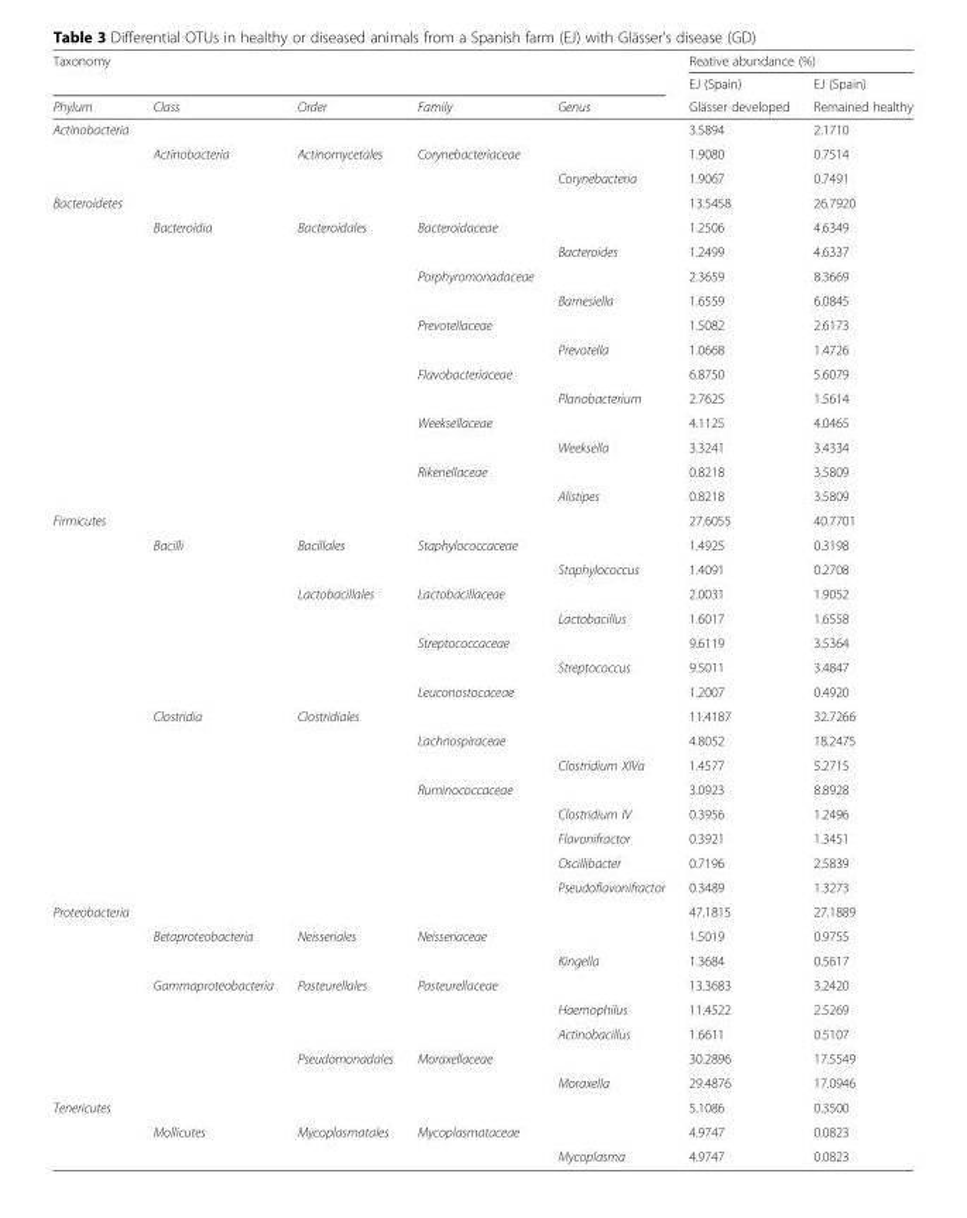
<table><thead><tr><td rowspan="2" colspan="5">Taxonomy</td><td colspan="2">Reative abundance (%)</td></tr><tr><td rowspan="2">EJ (Spain) Glässer developed</td><td rowspan="2">EJ (Spain) Remained healthy</td></tr><tr><td>Phylum</td><td>Class</td><td>Order</td><td>Family</td><td>Genus</td></tr></thead><tbody><tr><td rowspan="3">Actinobacteria</td><td></td><td></td><td></td><td></td><td>3.5894</td><td>2.1710</td></tr><tr><td>Actinobacteria</td><td>Actinomycetales</td><td>Corynebacteriaceae</td><td></td><td>1.9080</td><td>0.7514</td></tr><tr><td></td><td></td><td></td><td>Corynebacteria</td><td>1.9067</td><td>0.7491</td></tr><tr><td rowspan="13">Bacteroidetes</td><td></td><td></td><td></td><td></td><td>13.5458</td><td>26.7920</td></tr><tr><td>Bacteroidia</td><td>Bacteroidales</td><td>Bacteroidaceae</td><td></td><td>1.2506</td><td>4.6349</td></tr><tr><td></td><td></td><td></td><td>Bacteroides</td><td>1.2499</td><td>4.6337</td></tr><tr><td></td><td></td><td>Porphyromonadaceae</td><td></td><td>2.3659</td><td>8.3669</td></tr><tr><td></td><td></td><td></td><td>Barnesiella</td><td>1.6559</td><td>6.0845</td></tr><tr><td></td><td></td><td>Prevotellaceae</td><td></td><td>1.5082</td><td>2.6173</td></tr><tr><td></td><td></td><td></td><td>Prevotella</td><td>1.0668</td><td>1.4726</td></tr><tr><td></td><td></td><td>Flavobacteriaceae</td><td></td><td>6.8750</td><td>5.6079</td></tr><tr><td></td><td></td><td></td><td>Planobacterium</td><td>2.7625</td><td>1.5614</td></tr><tr><td></td><td></td><td>Weeksellaceae</td><td></td><td>4.1125</td><td>4.0465</td></tr><tr><td></td><td></td><td></td><td>Weeksella</td><td>3.3241</td><td>3.4334</td></tr><tr><td></td><td></td><td>Rikenellaceae</td><td></td><td>0.8218</td><td>3.5809</td></tr><tr><td></td><td></td><td></td><td>Alistipes</td><td>0.8218</td><td>3.5809</td></tr><tr><td rowspan="16">Firmicutes</td><td></td><td></td><td></td><td></td><td>27.6055</td><td>40.7701</td></tr><tr><td>Bacilli</td><td>Bacillales</td><td>Staphylococcaceae</td><td></td><td>1.4925</td><td>0.3198</td></tr><tr><td></td><td></td><td></td><td>Staphylococcus</td><td>1.4091</td><td>0.2708</td></tr><tr><td></td><td>Lactobacillales</td><td>Lactobacillaceae</td><td></td><td>2.0031</td><td>1.9052</td></tr><tr><td></td><td></td><td></td><td>Lactobacillus</td><td>1.6017</td><td>1.6558</td></tr><tr><td></td><td></td><td>Streptococcaceae</td><td></td><td>9.6119</td><td>3.5364</td></tr><tr><td></td><td></td><td></td><td>Streptococcus</td><td>9.5011</td><td>3.4847</td></tr><tr><td></td><td></td><td>Leuconostocaceae</td><td></td><td>1.2007</td><td>0.4920</td></tr><tr><td>Clostridia</td><td>Clostridiales</td><td></td><td></td><td>11.4187</td><td>32.7266</td></tr><tr><td></td><td></td><td>Lachnospiraceae</td><td></td><td>4.8052</td><td>18.2475</td></tr><tr><td></td><td></td><td></td><td>Clostridium XlVa</td><td>1.4577</td><td>5.2715</td></tr><tr><td></td><td></td><td>Ruminococcaceae</td><td></td><td>3.0923</td><td>8.8928</td></tr><tr><td></td><td></td><td></td><td>Clostridium IV</td><td>0.3956</td><td>1.2496</td></tr><tr><td></td><td></td><td></td><td>Flavonifractor</td><td>0.3921</td><td>1.3451</td></tr><tr><td></td><td></td><td></td><td>Oscillibacter</td><td>0.7196</td><td>2.5839</td></tr><tr><td></td><td></td><td></td><td>Pseudoflavonifractor</td><td>0.3489</td><td>1.3273</td></tr><tr><td rowspan="8">Proteobacteria</td><td></td><td></td><td></td><td></td><td>47.1815</td><td>27.1889</td></tr><tr><td>Betaproteobacteria</td><td>Neisseriales</td><td>Neisseriaceae</td><td></td><td>1.5019</td><td>0.9755</td></tr><tr><td></td><td></td><td></td><td>Kingella</td><td>1.3684</td><td>0.5617</td></tr><tr><td>Gammaproteobacteria</td><td>Pasteurellales</td><td>Pasteurellaceae</td><td></td><td>13.3683</td><td>3.2420</td></tr><tr><td></td><td></td><td></td><td>Haemophilus</td><td>11.4522</td><td>2.5269</td></tr><tr><td></td><td></td><td></td><td>Actinobacillus</td><td>1.6611</td><td>0.5107</td></tr><tr><td></td><td>Pseudomonadales</td><td>Moraxellaceae</td><td></td><td>30.2896</td><td>17.5549</td></tr><tr><td></td><td></td><td></td><td>Moraxella</td><td>29.4876</td><td>17.0946</td></tr><tr><td rowspan="3">Tenericutes</td><td></td><td></td><td></td><td></td><td>5.1086</td><td>0.3500</td></tr><tr><td>Mollicutes</td><td>Mycoplasmatales</td><td>Mycoplasmataceae</td><td></td><td>4.9747</td><td>0.0823</td></tr><tr><td></td><td></td><td></td><td>Mycoplasma</td><td>4.9747</td><td>0.0823</td></tr></tbody></table>